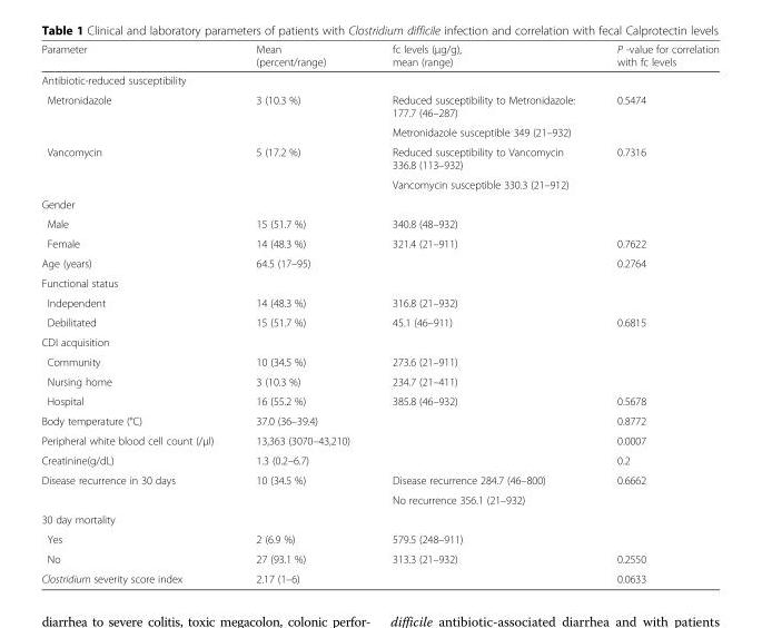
<table><thead><tr><td>Parameter</td><td>Mean (percent/range)</td><td>fc levels (μg/g), mean (range)</td><td>P -value for correlation with fc levels</td></tr></thead><tbody><tr><td colspan="4">Antibiotic-reduced susceptibility</td></tr><tr><td rowspan="2">Metronidazole</td><td rowspan="2">3 (10.3 %)</td><td>Reduced susceptibility to Metronidazole: 177.7 (46–287)</td><td rowspan="2">0.5474</td></tr><tr><td>Metronidazole susceptible 349 (21–932)</td></tr><tr><td rowspan="2">Vancomycin</td><td rowspan="2">5 (17.2 %)</td><td>Reduced susceptibility to Vancomycin 336.8 (113–932)</td><td rowspan="2">0.7316</td></tr><tr><td>Vancomycin susceptible 330.3 (21–912)</td></tr><tr><td colspan="4">Gender</td></tr><tr><td>Male</td><td>15 (51.7 %)</td><td>340.8 (48–932)</td><td></td></tr><tr><td>Female</td><td>14 (48.3 %)</td><td>321.4 (21–911)</td><td>0.7622</td></tr><tr><td>Age (years)</td><td>64.5 (17–95)</td><td></td><td>0.2764</td></tr><tr><td colspan="4">Functional status</td></tr><tr><td>Independent</td><td>14 (48.3 %)</td><td>316.8 (21–932)</td><td></td></tr><tr><td>Debilitated</td><td>15 (51.7 %)</td><td>45.1 (46–911)</td><td>0.6815</td></tr><tr><td colspan="4">CDI acquisition</td></tr><tr><td>Community</td><td>10 (34.5 %)</td><td>273.6 (21–911)</td><td></td></tr><tr><td>Nursing home</td><td>3 (10.3 %)</td><td>234.7 (21–411)</td><td></td></tr><tr><td>Hospital</td><td>16 (55.2 %)</td><td>385.8 (46–932)</td><td>0.5678</td></tr><tr><td>Body temperature (°C)</td><td>37.0 (36–39.4)</td><td></td><td>0.8772</td></tr><tr><td>Peripheral white blood cell count (/μl)</td><td>13,363 (3070–43,210)</td><td></td><td>0.0007</td></tr><tr><td>Creatinine(g/dL)</td><td>1.3 (0.2–6.7)</td><td></td><td>0.2</td></tr><tr><td rowspan="2">Disease recurrence in 30 days</td><td rowspan="2">10 (34.5 %)</td><td>Disease recurrence 284.7 (46–800)</td><td rowspan="2">0.6662</td></tr><tr><td>No recurrence 356.1 (21–932)</td></tr><tr><td colspan="4">30 day mortality</td></tr><tr><td>Yes</td><td>2 (6.9 %)</td><td>579.5 (248–911)</td><td></td></tr><tr><td>No</td><td>27 (93.1 %)</td><td>313.3 (21–932)</td><td>0.2550</td></tr><tr><td>Clostridium severity score index</td><td>2.17 (1–6)</td><td></td><td>0.0633</td></tr></tbody></table>